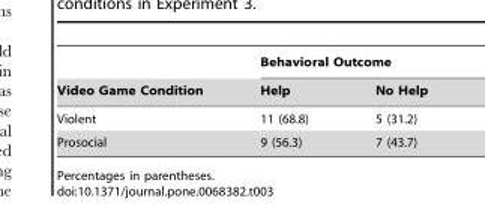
<table><thead><tr><td rowspan="2">Video Game Condition</td><td colspan="2">Behavioral Outcome</td></tr><tr><td>Help</td><td>No Help</td></tr></thead><tbody><tr><td>Violent</td><td>11 (68.8)</td><td>5 (31.2)</td></tr><tr><td>Prosocial</td><td>9 (56.3)</td><td>7 (43.7)</td></tr></tbody></table>